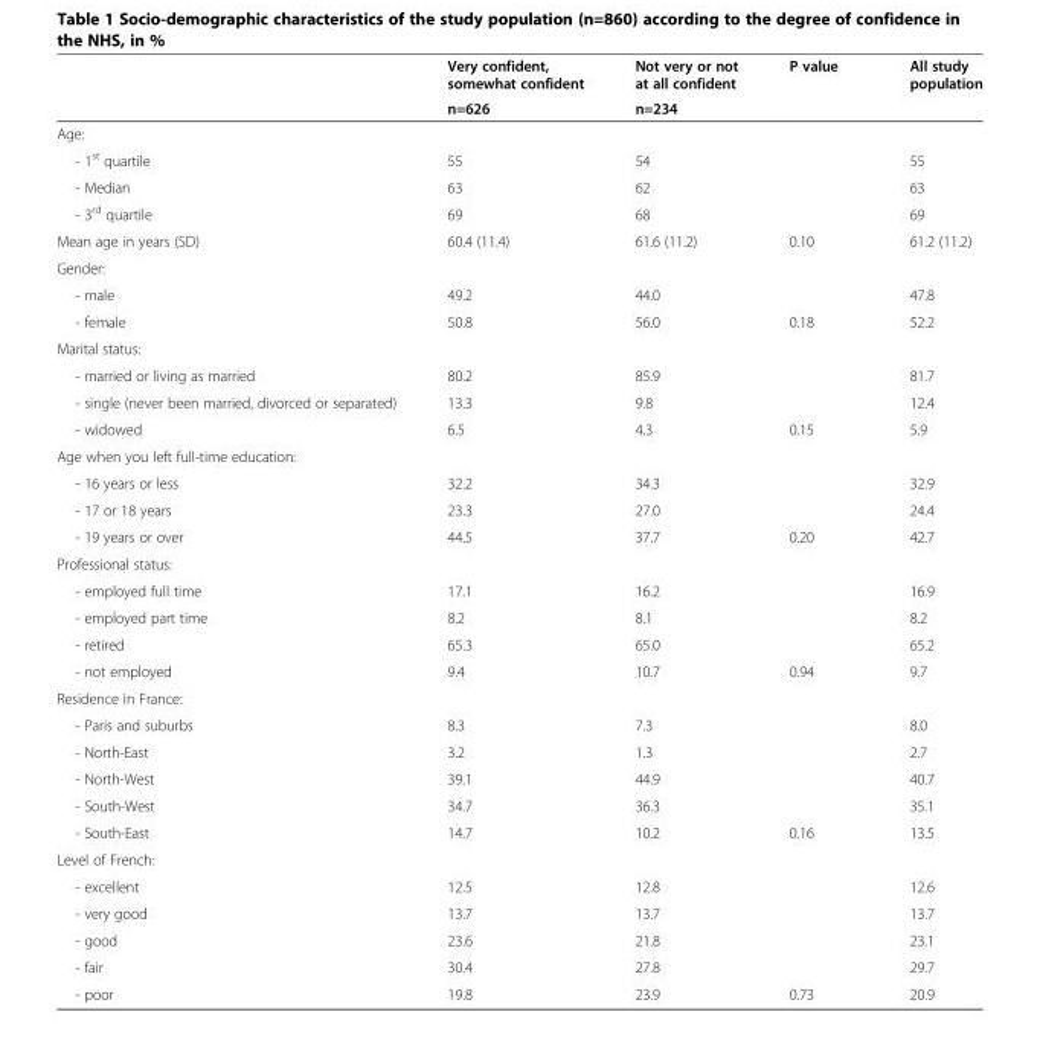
<table><thead><tr><td rowspan="2"></td><td rowspan="2">Very confident, somewhat confident n=626</td><td rowspan="2">Not very or not at all confident n=234</td><td rowspan="2">P value</td><td rowspan="2">All study population</td></tr><tr></tr></thead><tbody><tr><td colspan="5">Age:</td></tr><tr><td>- 1<sup>st</sup> quartile</td><td>55</td><td>54</td><td></td><td>55</td></tr><tr><td>- Median</td><td>63</td><td>62</td><td></td><td>63</td></tr><tr><td>- 3<sup>rd</sup> quartile</td><td>69</td><td>68</td><td></td><td>69</td></tr><tr><td>Mean age in years (SD)</td><td>60.4 (11.4)</td><td>61.6 (11.2)</td><td>0.10</td><td>61.2 (11.2)</td></tr><tr><td colspan="5">Gender:</td></tr><tr><td>- male</td><td>49.2</td><td>44.0</td><td></td><td>47.8</td></tr><tr><td>- female</td><td>50.8</td><td>56.0</td><td>0.18</td><td>52.2</td></tr><tr><td colspan="5">Marital status:</td></tr><tr><td>- married or living as married</td><td>80.2</td><td>85.9</td><td></td><td>81.7</td></tr><tr><td>- single (never been married, divorced or separated)</td><td>13.3</td><td>9.8</td><td></td><td>12.4</td></tr><tr><td>- widowed</td><td>6.5</td><td>4.3</td><td>0.15</td><td>5.9</td></tr><tr><td colspan="5">Age when you left full-time education:</td></tr><tr><td>- 16 years or less</td><td>32.2</td><td>34.3</td><td></td><td>32.9</td></tr><tr><td>- 17 or 18 years</td><td>23.3</td><td>27.0</td><td></td><td>24.4</td></tr><tr><td>- 19 years or over</td><td>44.5</td><td>37.7</td><td>0.20</td><td>42.7</td></tr><tr><td colspan="5">Professional status:</td></tr><tr><td>- employed full time</td><td>17.1</td><td>16.2</td><td></td><td>16.9</td></tr><tr><td>- employed part time</td><td>8.2</td><td>8.1</td><td></td><td>8.2</td></tr><tr><td>- retired</td><td>65.3</td><td>65.0</td><td></td><td>65.2</td></tr><tr><td>- not employed</td><td>9.4</td><td>10.7</td><td>0.94</td><td>9.7</td></tr><tr><td colspan="5">Residence in France:</td></tr><tr><td>- Paris and suburbs</td><td>8.3</td><td>7.3</td><td></td><td>8.0</td></tr><tr><td>- North-East</td><td>3.2</td><td>1.3</td><td></td><td>2.7</td></tr><tr><td>- North-West</td><td>39.1</td><td>44.9</td><td></td><td>40.7</td></tr><tr><td>- South-West</td><td>34.7</td><td>36.3</td><td></td><td>35.1</td></tr><tr><td>- South-East</td><td>14.7</td><td>10.2</td><td>0.16</td><td>13.5</td></tr><tr><td colspan="5">Level of French:</td></tr><tr><td>- excellent</td><td>12.5</td><td>12.8</td><td></td><td>12.6</td></tr><tr><td>- very good</td><td>13.7</td><td>13.7</td><td></td><td>13.7</td></tr><tr><td>- good</td><td>23.6</td><td>21.8</td><td></td><td>23.1</td></tr><tr><td>- fair</td><td>30.4</td><td>27.8</td><td></td><td>29.7</td></tr><tr><td>- poor</td><td>19.8</td><td>23.9</td><td>0.73</td><td>20.9</td></tr></tbody></table>